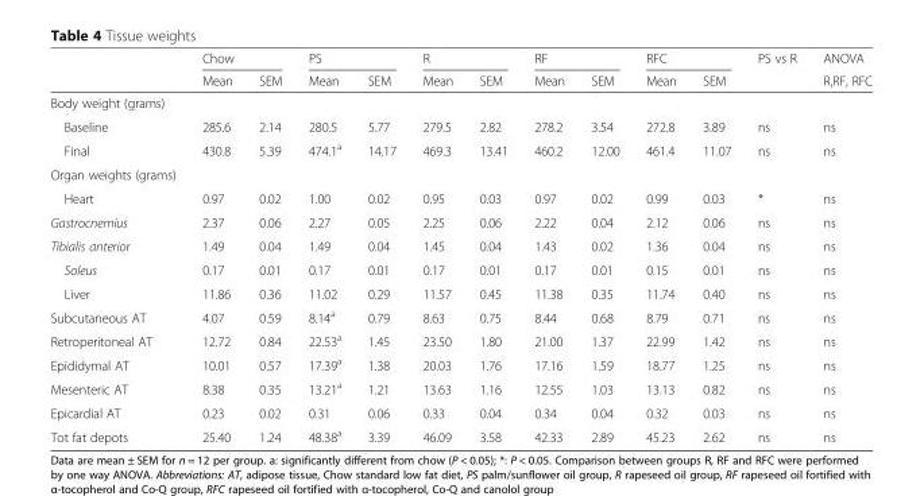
<table><thead><tr><td rowspan="2"></td><td colspan="2">Chow</td><td colspan="2">PS</td><td colspan="2">R</td><td colspan="2">RF</td><td colspan="2">RFC</td><td rowspan="2">PS vs R</td><td rowspan="2">ANOVA R,RF, RFC</td></tr><tr><td>Mean</td><td>SEM</td><td>Mean</td><td>SEM</td><td>Mean</td><td>SEM</td><td>Mean</td><td>SEM</td><td>Mean</td><td>SEM</td></tr></thead><tbody><tr><td colspan="13">Body weight (grams)</td></tr><tr><td>Baseline</td><td>285.6</td><td>2.14</td><td>280.5</td><td>5.77</td><td>279.5</td><td>2.82</td><td>278.2</td><td>3.54</td><td>272.8</td><td>3.89</td><td>ns</td><td>ns</td></tr><tr><td>Final</td><td>430.8</td><td>5.39</td><td>474.1<sup>a</sup></td><td>14.17</td><td>469.3</td><td>13.41</td><td>460.2</td><td>12.00</td><td>461.4</td><td>11.07</td><td>ns</td><td>ns</td></tr><tr><td colspan="13">Organ weights (grams)</td></tr><tr><td>Heart</td><td>0.97</td><td>0.02</td><td>1.00</td><td>0.02</td><td>0.95</td><td>0.03</td><td>0.97</td><td>0.02</td><td>0.99</td><td>0.03</td><td>*</td><td>ns</td></tr><tr><td>Gastrocnemius</td><td>2.37</td><td>0.06</td><td>2.27</td><td>0.05</td><td>2.25</td><td>0.06</td><td>2.22</td><td>0.04</td><td>2.12</td><td>0.06</td><td>ns</td><td>ns</td></tr><tr><td>Tibialis anterior</td><td>1.49</td><td>0.04</td><td>1.49</td><td>0.04</td><td>1.45</td><td>0.04</td><td>1.43</td><td>0.02</td><td>1.36</td><td>0.04</td><td>ns</td><td>ns</td></tr><tr><td>Soleus</td><td>0.17</td><td>0.01</td><td>0.17</td><td>0.01</td><td>0.17</td><td>0.01</td><td>0.17</td><td>0.01</td><td>0.15</td><td>0.01</td><td>ns</td><td>ns</td></tr><tr><td>Liver</td><td>11.86</td><td>0.36</td><td>11.02</td><td>0.29</td><td>11.57</td><td>0.45</td><td>11.38</td><td>0.35</td><td>11.74</td><td>0.40</td><td>ns</td><td>ns</td></tr><tr><td>Subcutaneous AT</td><td>4.07</td><td>0.59</td><td>8.14<sup>a</sup></td><td>0.79</td><td>8.63</td><td>0.75</td><td>8.44</td><td>0.68</td><td>8.79</td><td>0.71</td><td>ns</td><td>ns</td></tr><tr><td>Retroperitoneal AT</td><td>12.72</td><td>0.84</td><td>22.53<sup>a</sup></td><td>1.45</td><td>23.50</td><td>1.80</td><td>21.00</td><td>1.37</td><td>22.99</td><td>1.42</td><td>ns</td><td>ns</td></tr><tr><td>Epididymal AT</td><td>10.01</td><td>0.57</td><td>17.39<sup>a</sup></td><td>1.38</td><td>20.03</td><td>1.76</td><td>17.16</td><td>1.59</td><td>18.77</td><td>1.25</td><td>ns</td><td>ns</td></tr><tr><td>Mesenteric AT</td><td>8.38</td><td>0.35</td><td>13.21<sup>a</sup></td><td>1.21</td><td>13.63</td><td>1.16</td><td>12.55</td><td>1.03</td><td>13.13</td><td>0.82</td><td>ns</td><td>ns</td></tr><tr><td>Epicardial AT</td><td>0.23</td><td>0.02</td><td>0.31</td><td>0.06</td><td>0.33</td><td>0.04</td><td>0.34</td><td>0.04</td><td>0.32</td><td>0.03</td><td>ns</td><td>ns</td></tr><tr><td>Tot fat depots</td><td>25.40</td><td>1.24</td><td>48.38<sup>a</sup></td><td>3.39</td><td>46.09</td><td>3.58</td><td>42.33</td><td>2.89</td><td>45.23</td><td>2.62</td><td>ns</td><td>ns</td></tr></tbody></table>